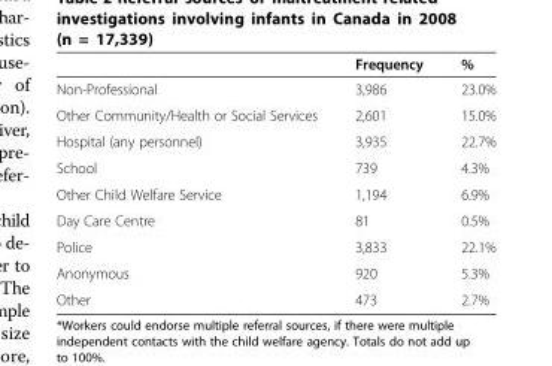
<table><thead><tr><td></td><td>Frequency</td><td>%</td></tr></thead><tbody><tr><td>Non-Professional</td><td>3,986</td><td>23.0%</td></tr><tr><td>Other Community/Health or Social Services</td><td>2,601</td><td>15.0%</td></tr><tr><td>Hospital (any personnel)</td><td>3,935</td><td>22.7%</td></tr><tr><td>School</td><td>739</td><td>4.3%</td></tr><tr><td>Other Child Welfare Service</td><td>1,194</td><td>6.9%</td></tr><tr><td>Day Care Centre</td><td>81</td><td>0.5%</td></tr><tr><td>Police</td><td>3,833</td><td>22.1%</td></tr><tr><td>Anonymous</td><td>920</td><td>5.3%</td></tr><tr><td>Other</td><td>473</td><td>2.7%</td></tr></tbody></table>